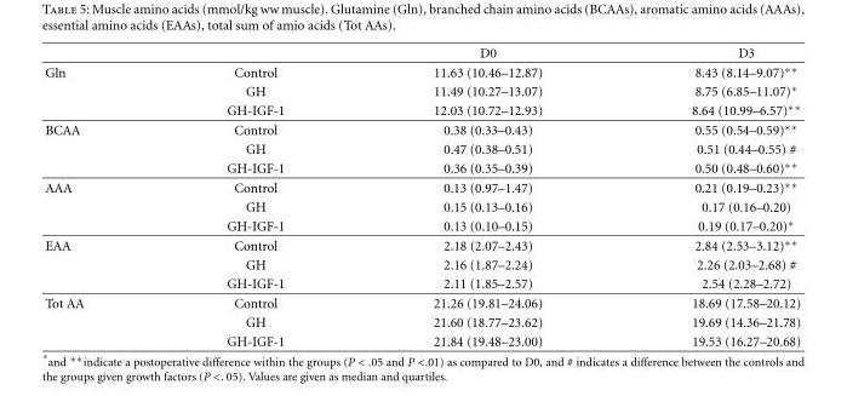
<table><thead><tr><td></td><td></td><td>D0</td><td>D3</td></tr></thead><tbody><tr><td rowspan="3">Gln</td><td>Control</td><td>11.63 (10.46–12.87)</td><td>8.43 (8.14–9.07)∗∗</td></tr><tr><td>GH</td><td>11.49 (10.27–13.07)</td><td>8.75 (6.85–11.07)∗</td></tr><tr><td>GH-IGF-1</td><td>12.03 (10.72–12.93)</td><td>8.64 (10.99–6.57)∗∗</td></tr><tr><td rowspan="3">BCAA</td><td>Control</td><td>0.38 (0.33–0.43)</td><td>0.55 (0.54–0.59)∗∗</td></tr><tr><td>GH</td><td>0.47 (0.38–0.51)</td><td>0.51 (0.44–0.55) #</td></tr><tr><td>GH-IGF-1</td><td>0.36 (0.35–0.39)</td><td>0.50 (0.48–0.60)∗∗</td></tr><tr><td rowspan="3">AAA</td><td>Control</td><td>0.13 (0.97–1.47)</td><td>0.21 (0.19–0.23)∗∗</td></tr><tr><td>GH</td><td>0.15 (0.13–0.16)</td><td>0.17 (0.16–0.20)</td></tr><tr><td>GH-IGF-1</td><td>0.13 (0.10–0.15)</td><td>0.19 (0.17–0.20)∗</td></tr><tr><td rowspan="3">EAA</td><td>Control</td><td>2.18 (2.07–2.43)</td><td>2.84 (2.53–3.12)∗∗</td></tr><tr><td>GH</td><td>2.16 (1.87–2.24)</td><td>2.26 (2.03–2.68) #</td></tr><tr><td>GH-IGF-1</td><td>2.11 (1.85–2.57)</td><td>2.54 (2.28–2.72)</td></tr><tr><td rowspan="3">Tot AA</td><td>Control</td><td>21.26 (19.81–24.06)</td><td>18.69 (17.58–20.12)</td></tr><tr><td>GH</td><td>21.60 (18.77–23.62)</td><td>19.69 (14.36–21.78)</td></tr><tr><td>GH-IGF-1</td><td>21.84 (19.48–23.00)</td><td>19.53 (16.27–20.68)</td></tr></tbody></table>